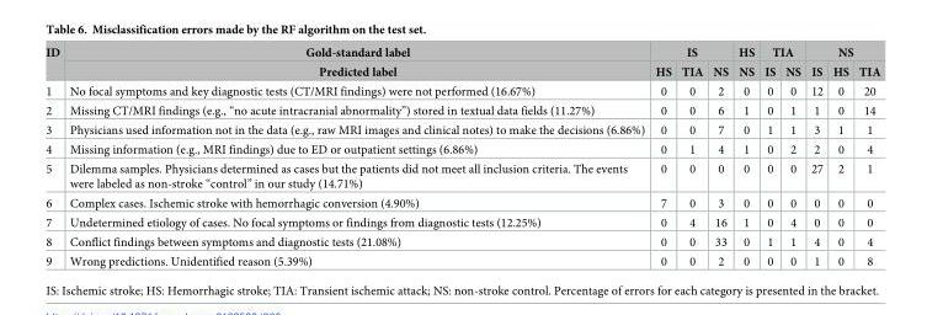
<table><tbody><tr><td rowspan="2">ID</td><td>Gold-standard label</td><td colspan="3">IS</td><td>HS</td><td colspan="2">TIA</td><td colspan="3">NS</td></tr><tr><td>Predicted label</td><td>HS</td><td>TIA</td><td>NS</td><td>NS</td><td>IS</td><td>NS</td><td>IS</td><td>HS</td><td>TIA</td></tr><tr><td>1</td><td>No focal symptoms and key diagnostic tests (CT/MRI findings) were not performed (16.67%)</td><td>0</td><td>0</td><td>2</td><td>0</td><td>0</td><td>0</td><td>12</td><td>0</td><td>20</td></tr><tr><td>2</td><td>Missing CT/MRI findings (e.g., “no acute intracranial abnormality”) stored in textual data fields (11.27%)</td><td>0</td><td>0</td><td>6</td><td>1</td><td>0</td><td>1</td><td>1</td><td>0</td><td>14</td></tr><tr><td>3</td><td>Physicians used information not in the data (e.g., raw MRI images and clinical notes) to make the decisions (6.86%)</td><td>0</td><td>0</td><td>7</td><td>0</td><td>1</td><td>1</td><td>3</td><td>1</td><td>1</td></tr><tr><td>4</td><td>Missing information (e.g., MRI findings) due to ED or outpatient settings (6.86%)</td><td>0</td><td>1</td><td>4</td><td>1</td><td>0</td><td>2</td><td>2</td><td>0</td><td>4</td></tr><tr><td>5</td><td>Dilemma samples. Physicians determined as cases but the patients did not meet all inclusion criteria. The events were labeled as non-stroke “control” in our study (14.71%)</td><td>0</td><td>0</td><td>0</td><td>0</td><td>0</td><td>0</td><td>27</td><td>2</td><td>1</td></tr><tr><td>6</td><td>Complex cases. Ischemic stroke with hemorrhagic conversion (4.90%)</td><td>7</td><td>0</td><td>3</td><td>0</td><td>0</td><td>0</td><td>0</td><td>0</td><td>0</td></tr><tr><td>7</td><td>Undetermined etiology of cases. No focal symptoms or findings from diagnostic tests (12.25%)</td><td>0</td><td>4</td><td>16</td><td>1</td><td>0</td><td>4</td><td>0</td><td>0</td><td>0</td></tr><tr><td>8</td><td>Conflict findings between symptoms and diagnostic tests (21.08%)</td><td>0</td><td>0</td><td>33</td><td>0</td><td>1</td><td>1</td><td>4</td><td>0</td><td>4</td></tr><tr><td>9</td><td>Wrong predictions. Unidentified reason (5.39%)</td><td>0</td><td>0</td><td>2</td><td>0</td><td>0</td><td>0</td><td>1</td><td>0</td><td>8</td></tr></tbody></table>